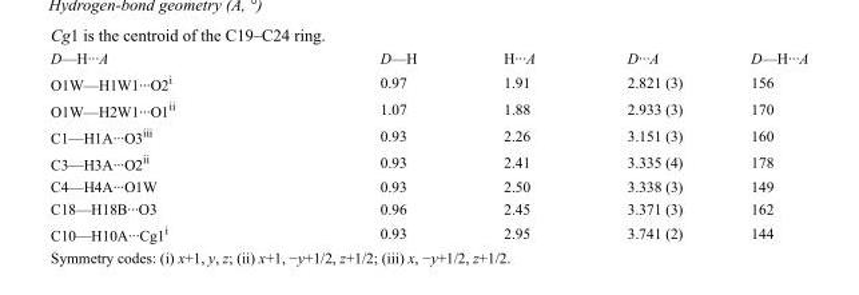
<table><tbody><tr><td>D—H···A</td><td>D—H</td><td>H···A</td><td>D···A</td><td>D—H···A</td></tr><tr><td>O1W—H1W1···O2<sup>i</sup></td><td>0.97</td><td>1.91</td><td>2.821 (3)</td><td>156</td></tr><tr><td>O1W—H2W1···O1<sup>ii</sup></td><td>1.07</td><td>1.88</td><td>2.933 (3)</td><td>170</td></tr><tr><td>C1—H1A···O3<sup>iii</sup></td><td>0.93</td><td>2.26</td><td>3.151 (3)</td><td>160</td></tr><tr><td>C3—H3A···O2<sup>ii</sup></td><td>0.93</td><td>2.41</td><td>3.335 (4)</td><td>178</td></tr><tr><td>C4—H4A···O1W</td><td>0.93</td><td>2.50</td><td>3.338 (3)</td><td>149</td></tr><tr><td>C18—H18B···O3</td><td>0.96</td><td>2.45</td><td>3.371 (3)</td><td>162</td></tr><tr><td>C10—H10A···Cg1<sup>i</sup></td><td>0.93</td><td>2.95</td><td>3.741 (2)</td><td>144</td></tr></tbody></table>